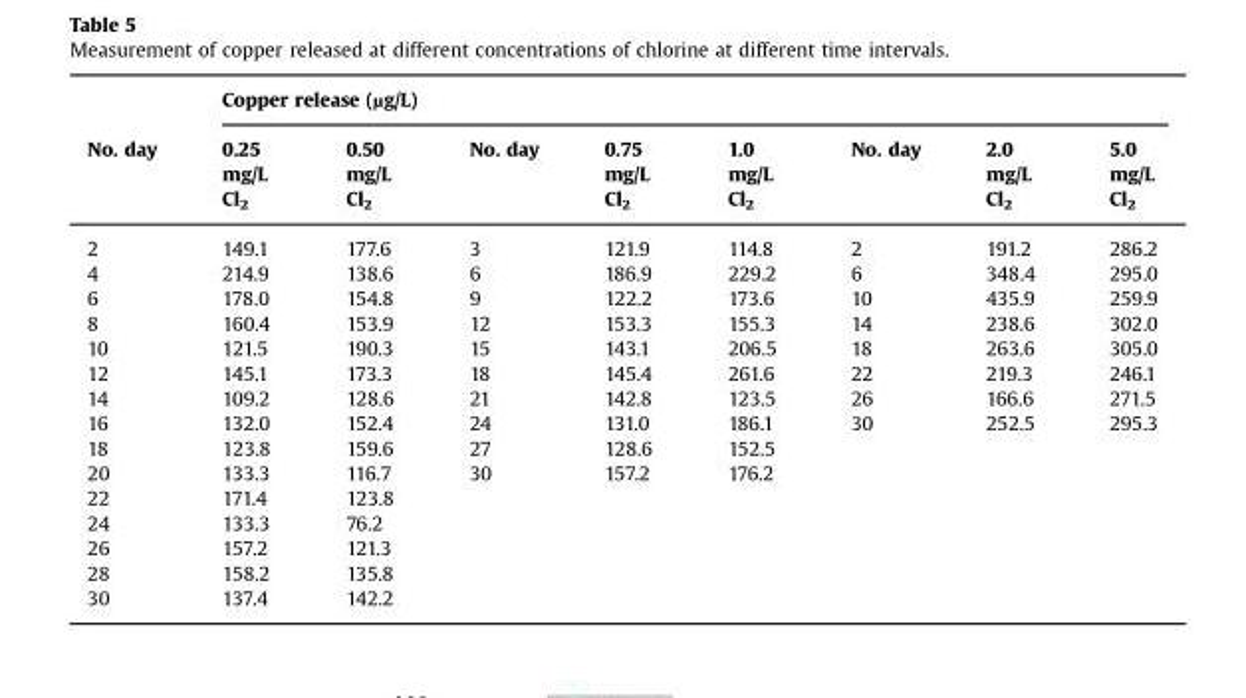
<table><thead><tr><td rowspan="2">No. day</td><td colspan="8">Copper release (µg/L)</td></tr><tr><td>0.25 mg/L Cl<sub>2</sub></td><td>0.50 mg/L Cl<sub>2</sub></td><td>No. day</td><td>0.75 mg/L Cl<sub>2</sub></td><td>1.0 mg/L Cl<sub>2</sub></td><td>No. day</td><td>2.0 mg/L Cl<sub>2</sub></td><td>5.0 mg/L Cl<sub>2</sub></td></tr></thead><tbody><tr><td>2</td><td>149.1</td><td>177.6</td><td>3</td><td>121.9</td><td>114.8</td><td>2</td><td>191.2</td><td>286.2</td></tr><tr><td>4</td><td>214.9</td><td>138.6</td><td>6</td><td>186.9</td><td>229.2</td><td>6</td><td>348.4</td><td>295.0</td></tr><tr><td>6</td><td>178.0</td><td>154.8</td><td>9</td><td>122.2</td><td>173.6</td><td>10</td><td>435.9</td><td>259.9</td></tr><tr><td>8</td><td>160.4</td><td>153.9</td><td>12</td><td>153.3</td><td>155.3</td><td>14</td><td>238.6</td><td>302.0</td></tr><tr><td>10</td><td>121.5</td><td>190.3</td><td>15</td><td>143.1</td><td>206.5</td><td>18</td><td>263.6</td><td>305.0</td></tr><tr><td>12</td><td>145.1</td><td>173.3</td><td>18</td><td>145.4</td><td>261.6</td><td>22</td><td>219.3</td><td>246.1</td></tr><tr><td>14</td><td>109.2</td><td>128.6</td><td>21</td><td>142.8</td><td>123.5</td><td>26</td><td>166.6</td><td>271.5</td></tr><tr><td>16</td><td>132.0</td><td>152.4</td><td>24</td><td>131.0</td><td>186.1</td><td>30</td><td>252.5</td><td>295.3</td></tr><tr><td>18</td><td>123.8</td><td>159.6</td><td>27</td><td>128.6</td><td>152.5</td><td></td><td></td><td></td></tr><tr><td>20</td><td>133.3</td><td>116.7</td><td>30</td><td>157.2</td><td>176.2</td><td></td><td></td><td></td></tr><tr><td>22</td><td>171.4</td><td>123.8</td><td></td><td></td><td></td><td></td><td></td><td></td></tr><tr><td>24</td><td>133.3</td><td>76.2</td><td></td><td></td><td></td><td></td><td></td><td></td></tr><tr><td>26</td><td>157.2</td><td>121.3</td><td></td><td></td><td></td><td></td><td></td><td></td></tr><tr><td>28</td><td>158.2</td><td>135.8</td><td></td><td></td><td></td><td></td><td></td><td></td></tr><tr><td>30</td><td>137.4</td><td>142.2</td><td></td><td></td><td></td><td></td><td></td><td></td></tr></tbody></table>